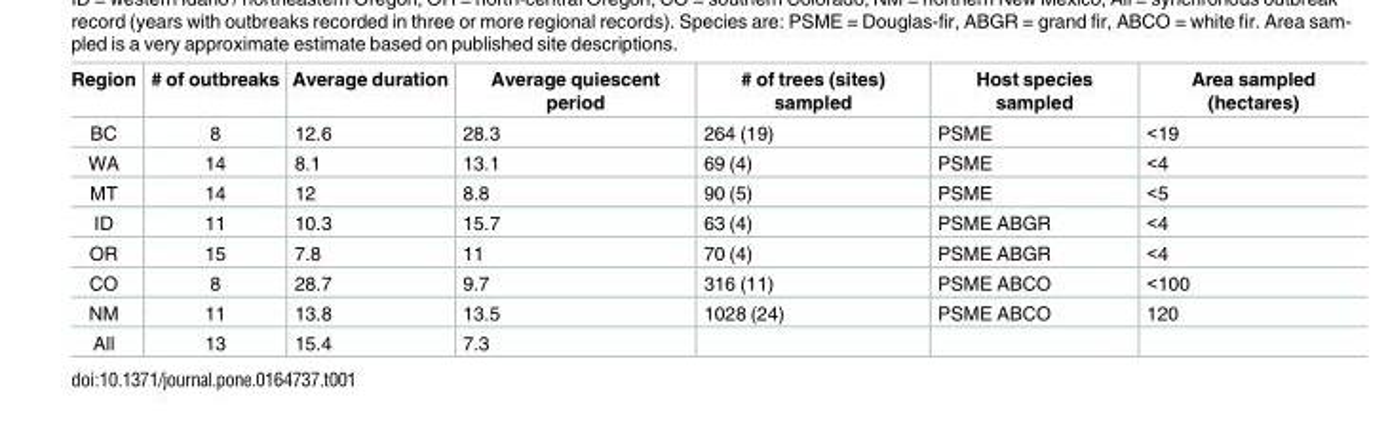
<table><thead><tr><td>Region</td><td># of outbreaks</td><td>Average duration</td><td>Average quiescent period</td><td># of trees (sites) sampled</td><td>Host species sampled</td><td>Area sampled (hectares)</td></tr></thead><tbody><tr><td>BC</td><td>8</td><td>12.6</td><td>28.3</td><td>264 (19)</td><td>PSME</td><td>&lt;19</td></tr><tr><td>WA</td><td>14</td><td>8.1</td><td>13.1</td><td>69 (4)</td><td>PSME</td><td>&lt;4</td></tr><tr><td>MT</td><td>14</td><td>12</td><td>8.8</td><td>90 (5)</td><td>PSME</td><td>&lt;5</td></tr><tr><td>ID</td><td>11</td><td>10.3</td><td>15.7</td><td>63 (4)</td><td>PSME ABGR</td><td>&lt;4</td></tr><tr><td>OR</td><td>15</td><td>7.8</td><td>11</td><td>70 (4)</td><td>PSME ABGR</td><td>&lt;4</td></tr><tr><td>CO</td><td>8</td><td>28.7</td><td>9.7</td><td>316 (11)</td><td>PSME ABCO</td><td>&lt;100</td></tr><tr><td>NM</td><td>11</td><td>13.8</td><td>13.5</td><td>1028 (24)</td><td>PSME ABCO</td><td>120</td></tr><tr><td>All</td><td>13</td><td>15.4</td><td>7.3</td><td></td><td></td><td></td></tr></tbody></table>